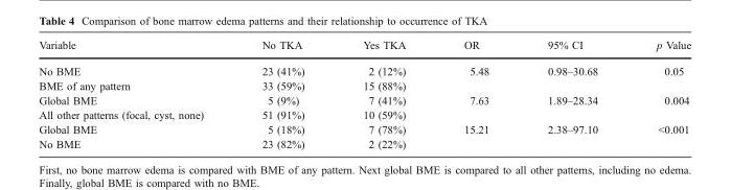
<table><thead><tr><td>Variable</td><td>No TKA</td><td>Yes TKA</td><td>OR</td><td>95% CI</td><td>p Value</td></tr></thead><tbody><tr><td>No BME</td><td>23 (41%)</td><td>2 (12%)</td><td rowspan="2">5.48</td><td rowspan="2">0.98–30.68</td><td rowspan="2">0.05</td></tr><tr><td>BME of any pattern</td><td>33 (59%)</td><td>15 (88%)</td></tr><tr><td>Global BME</td><td>5 (9%)</td><td>7 (41%)</td><td rowspan="2">7.63</td><td rowspan="2">1.89–28.34</td><td rowspan="2">0.004</td></tr><tr><td>All other patterns (focal, cyst, none)</td><td>51 (91%)</td><td>10 (59%)</td></tr><tr><td>Global BME</td><td>5 (18%)</td><td>7 (78%)</td><td rowspan="2">15.21</td><td rowspan="2">2.38–97.10</td><td rowspan="2">&lt;0.001</td></tr><tr><td>No BME</td><td>23 (82%)</td><td>2 (22%)</td></tr></tbody></table>